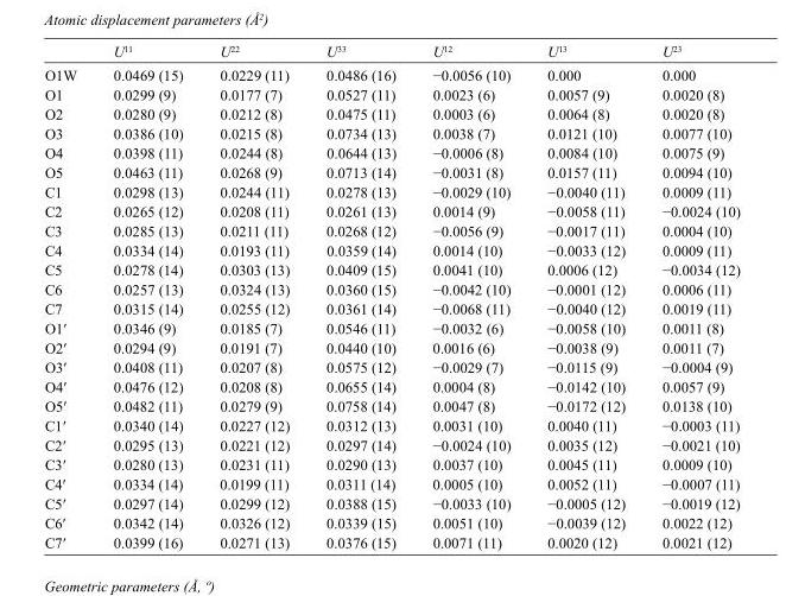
<table><thead><tr><td></td><td>U<sup>11</sup></td><td>U<sup>22</sup></td><td>U<sup>33</sup></td><td>U<sup>12</sup></td><td>U<sup>13</sup></td><td>U<sup>23</sup></td></tr></thead><tbody><tr><td>O1W</td><td>0.0469 (15)</td><td>0.0229 (11)</td><td>0.0486 (16)</td><td>−0.0056 (10)</td><td>0.000</td><td>0.000</td></tr><tr><td>O1</td><td>0.0299 (9)</td><td>0.0177 (7)</td><td>0.0527 (11)</td><td>0.0023 (6)</td><td>0.0057 (9)</td><td>0.0020 (8)</td></tr><tr><td>O2</td><td>0.0280 (9)</td><td>0.0212 (8)</td><td>0.0475 (11)</td><td>0.0003 (6)</td><td>0.0064 (8)</td><td>0.0020 (8)</td></tr><tr><td>O3</td><td>0.0386 (10)</td><td>0.0215 (8)</td><td>0.0734 (13)</td><td>0.0038 (7)</td><td>0.0121 (10)</td><td>0.0077 (10)</td></tr><tr><td>O4</td><td>0.0398 (11)</td><td>0.0244 (8)</td><td>0.0644 (13)</td><td>−0.0006 (8)</td><td>0.0084 (10)</td><td>0.0075 (9)</td></tr><tr><td>O5</td><td>0.0463 (11)</td><td>0.0268 (9)</td><td>0.0713 (14)</td><td>−0.0031 (8)</td><td>0.0157 (11)</td><td>0.0094 (10)</td></tr><tr><td>C1</td><td>0.0298 (13)</td><td>0.0244 (11)</td><td>0.0278 (13)</td><td>−0.0029 (10)</td><td>−0.0040 (11)</td><td>0.0009 (11)</td></tr><tr><td>C2</td><td>0.0265 (12)</td><td>0.0208 (11)</td><td>0.0261 (13)</td><td>0.0014 (9)</td><td>−0.0058 (11)</td><td>−0.0024 (10)</td></tr><tr><td>C3</td><td>0.0285 (13)</td><td>0.0211 (11)</td><td>0.0268 (12)</td><td>−0.0056 (9)</td><td>−0.0017 (11)</td><td>0.0004 (10)</td></tr><tr><td>C4</td><td>0.0334 (14)</td><td>0.0193 (11)</td><td>0.0359 (14)</td><td>0.0014 (10)</td><td>−0.0033 (12)</td><td>0.0009 (11)</td></tr><tr><td>C5</td><td>0.0278 (14)</td><td>0.0303 (13)</td><td>0.0409 (15)</td><td>0.0041 (10)</td><td>0.0006 (12)</td><td>−0.0034 (12)</td></tr><tr><td>C6</td><td>0.0257 (13)</td><td>0.0324 (13)</td><td>0.0360 (15)</td><td>−0.0042 (10)</td><td>−0.0001 (12)</td><td>0.0006 (11)</td></tr><tr><td>C7</td><td>0.0315 (14)</td><td>0.0255 (12)</td><td>0.0361 (14)</td><td>−0.0068 (11)</td><td>−0.0040 (12)</td><td>0.0019 (11)</td></tr><tr><td>O1′</td><td>0.0346 (9)</td><td>0.0185 (7)</td><td>0.0546 (11)</td><td>−0.0032 (6)</td><td>−0.0058 (10)</td><td>0.0011 (8)</td></tr><tr><td>O2′</td><td>0.0294 (9)</td><td>0.0191 (7)</td><td>0.0440 (10)</td><td>0.0016 (6)</td><td>−0.0038 (9)</td><td>0.0011 (7)</td></tr><tr><td>O3′</td><td>0.0408 (11)</td><td>0.0207 (8)</td><td>0.0575 (12)</td><td>−0.0029 (7)</td><td>−0.0115 (9)</td><td>−0.0004 (9)</td></tr><tr><td>O4′</td><td>0.0476 (12)</td><td>0.0208 (8)</td><td>0.0655 (14)</td><td>0.0004 (8)</td><td>−0.0142 (10)</td><td>0.0057 (9)</td></tr><tr><td>O5′</td><td>0.0482 (11)</td><td>0.0279 (9)</td><td>0.0758 (14)</td><td>0.0047 (8)</td><td>−0.0172 (12)</td><td>0.0138 (10)</td></tr><tr><td>C1′</td><td>0.0340 (14)</td><td>0.0227 (12)</td><td>0.0312 (13)</td><td>0.0031 (10)</td><td>0.0040 (11)</td><td>−0.0003 (11)</td></tr><tr><td>C2′</td><td>0.0295 (13)</td><td>0.0221 (12)</td><td>0.0297 (14)</td><td>−0.0024 (10)</td><td>0.0035 (12)</td><td>−0.0021 (10)</td></tr><tr><td>C3′</td><td>0.0280 (13)</td><td>0.0231 (11)</td><td>0.0290 (13)</td><td>0.0037 (10)</td><td>0.0045 (11)</td><td>0.0009 (10)</td></tr><tr><td>C4′</td><td>0.0334 (14)</td><td>0.0199 (11)</td><td>0.0311 (14)</td><td>0.0005 (10)</td><td>0.0052 (11)</td><td>−0.0007 (11)</td></tr><tr><td>C5′</td><td>0.0297 (14)</td><td>0.0299 (12)</td><td>0.0388 (15)</td><td>−0.0033 (10)</td><td>−0.0005 (12)</td><td>−0.0019 (12)</td></tr><tr><td>C6′</td><td>0.0342 (14)</td><td>0.0326 (12)</td><td>0.0339 (15)</td><td>0.0051 (10)</td><td>−0.0039 (12)</td><td>0.0022 (12)</td></tr><tr><td>C7′</td><td>0.0399 (16)</td><td>0.0271 (13)</td><td>0.0376 (15)</td><td>0.0071 (11)</td><td>0.0020 (12)</td><td>0.0021 (12)</td></tr></tbody></table>